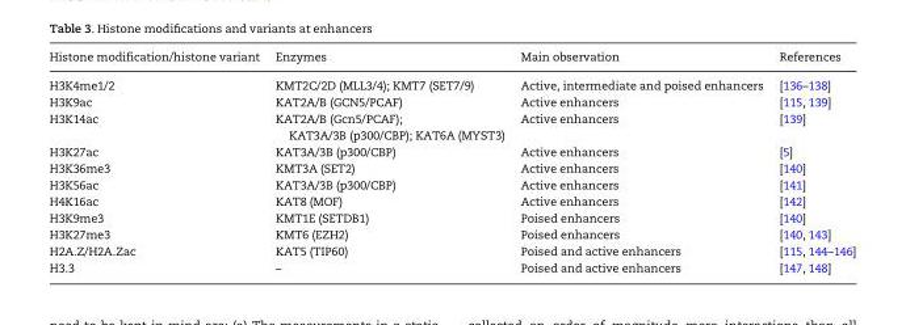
<table><thead><tr><td>Histone modification/histone variant</td><td>Enzymes</td><td>Main observation</td><td>References</td></tr></thead><tbody><tr><td>H3K4me1/2</td><td>KMT2C/2D (MLL3/4); KMT7 (SET7/9)</td><td>Active, intermediate and poised enhancers</td><td>[136–138]</td></tr><tr><td>H3K9ac</td><td>KAT2A/B (GCN5/PCAF)</td><td>Active enhancers</td><td>[115, 139]</td></tr><tr><td>H3K14ac</td><td>KAT2A/B (Gcn5/PCAF); KAT3A/3B (p300/CBP); KAT6A (MYST3)</td><td>Active enhancers</td><td>[139]</td></tr><tr><td>H3K27ac</td><td>KAT3A/3B (p300/CBP)</td><td>Active enhancers</td><td>[5]</td></tr><tr><td>H3K36me3</td><td>KMT3A (SET2)</td><td>Active enhancers</td><td>[140]</td></tr><tr><td>H3K56ac</td><td>KAT3A/3B (p300/CBP)</td><td>Active enhancers</td><td>[141]</td></tr><tr><td>H4K16ac</td><td>KAT8 (MOF)</td><td>Active enhancers</td><td>[142]</td></tr><tr><td>H3K9me3</td><td>KMT1E (SETDB1)</td><td>Poised enhancers</td><td>[140]</td></tr><tr><td>H3K27me3</td><td>KMT6 (EZH2)</td><td>Poised enhancers</td><td>[140, 143]</td></tr><tr><td>H2A.Z/H2A.Zac</td><td>KAT5 (TIP60)</td><td>Poised and active enhancers</td><td>[115, 144–146]</td></tr><tr><td>H3.3</td><td>–</td><td>Poised and active enhancers</td><td>[147, 148]</td></tr></tbody></table>